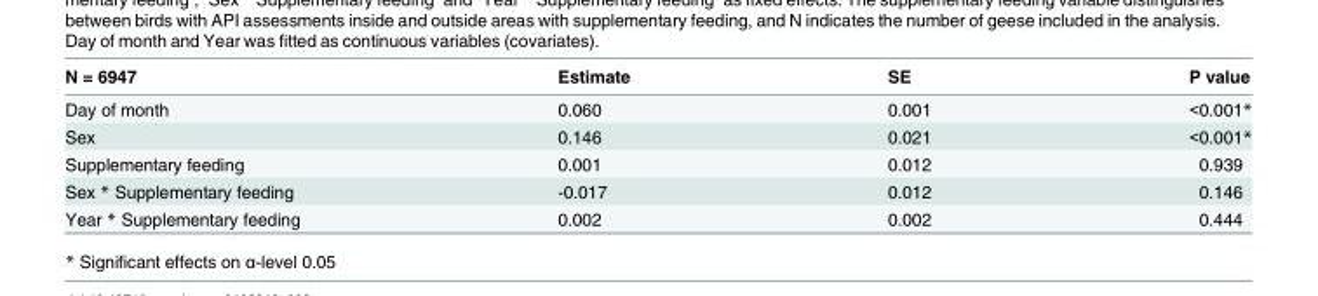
<table><thead><tr><td>N = 6947</td><td>Estimate</td><td>SE</td><td>P value</td></tr></thead><tbody><tr><td>Day of month</td><td>0.060</td><td>0.001</td><td>&lt;0.001*</td></tr><tr><td>Sex</td><td>0.146</td><td>0.021</td><td>&lt;0.001*</td></tr><tr><td>Supplementary feeding</td><td>0.001</td><td>0.012</td><td>0.939</td></tr><tr><td>Sex * Supplementary feeding</td><td>-0.017</td><td>0.012</td><td>0.146</td></tr><tr><td>Year * Supplementary feeding</td><td>0.002</td><td>0.002</td><td>0.444</td></tr></tbody></table>